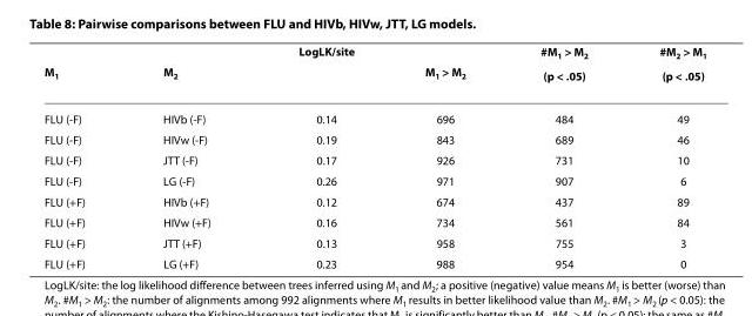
<table><thead><tr><td rowspan="2">M<sub>1</sub></td><td rowspan="2">M<sub>2</sub></td><td rowspan="2">LogLK/site</td><td rowspan="2">M<sub>1</sub> &gt; M<sub>2</sub></td><td rowspan="2">#M<sub>1</sub> &gt; M<sub>2</sub> (p &lt; .05)</td><td rowspan="2">#M<sub>2</sub> &gt; M<sub>1</sub> (p &lt; .05)</td></tr><tr></tr></thead><tbody><tr><td>FLU (-F)</td><td>HIVb (-F)</td><td>0.14</td><td>696</td><td>484</td><td>49</td></tr><tr><td>FLU (-F)</td><td>HIVw (-F)</td><td>0.19</td><td>843</td><td>689</td><td>46</td></tr><tr><td>FLU (-F)</td><td>JTT (-F)</td><td>0.17</td><td>926</td><td>731</td><td>10</td></tr><tr><td>FLU (-F)</td><td>LG (-F)</td><td>0.26</td><td>971</td><td>907</td><td>6</td></tr><tr><td>FLU (+F)</td><td>HIVb (+F)</td><td>0.12</td><td>674</td><td>437</td><td>89</td></tr><tr><td>FLU (+F)</td><td>HIVw (+F)</td><td>0.16</td><td>734</td><td>561</td><td>84</td></tr><tr><td>FLU (+F)</td><td>JTT (+F)</td><td>0.13</td><td>958</td><td>755</td><td>3</td></tr><tr><td>FLU (+F)</td><td>LG (+F)</td><td>0.23</td><td>988</td><td>954</td><td>0</td></tr></tbody></table>